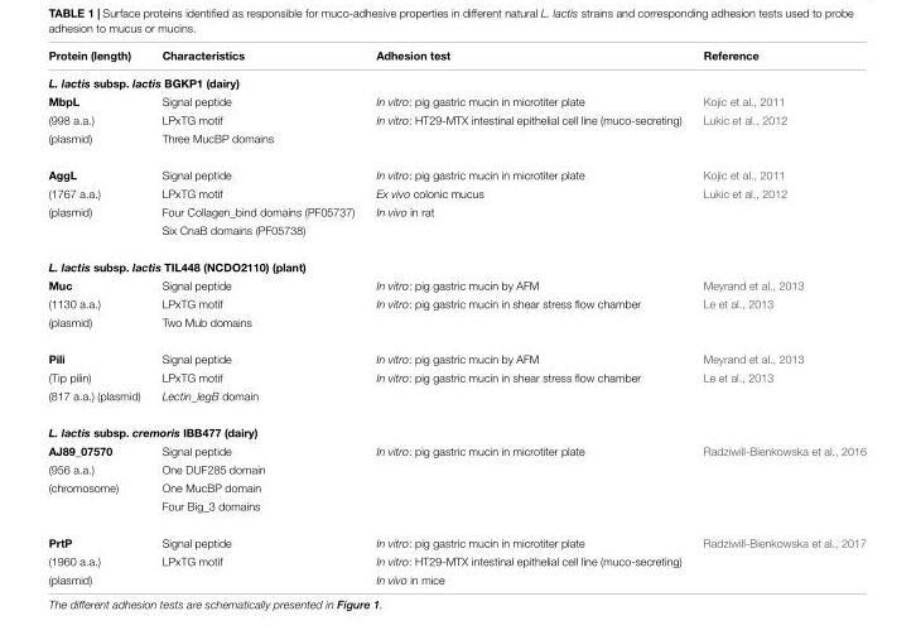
<table><thead><tr><td>Protein (length)</td><td>Characteristics</td><td>Adhesion test</td><td>Reference</td></tr></thead><tbody><tr><td colspan="4">L. lactis subsp. lactis BGKP1 (dairy)</td></tr><tr><td>MbpL</td><td>Signal peptide</td><td>In vitro: pig gastric mucin in microtiter plate</td><td>Kojic et al., 2011</td></tr><tr><td>(998 a.a.)</td><td>LPxTG motif</td><td>In vitro: HT29-MTX intestinal epithelial cell line (muco-secreting)</td><td>Lukic et al., 2012</td></tr><tr><td>(plasmid)</td><td>Three MucBP domains</td><td></td><td></td></tr><tr><td>AggL</td><td>Signal peptide</td><td>In vitro: pig gastric mucin in microtiter plate</td><td>Kojic et al., 2011</td></tr><tr><td>(1767 a.a.)</td><td>LPxTG motif</td><td>Ex vivo colonic mucus</td><td>Lukic et al., 2012</td></tr><tr><td rowspan="2">(plasmid)</td><td>Four Collagen_bind domains (PF05737)</td><td>In vivo in rat</td><td></td></tr><tr><td>Six CnaB domains (PF05738)</td><td></td><td></td></tr><tr><td colspan="4">L. lactis subsp. lactis TIL448 (NCDO2110) (plant)</td></tr><tr><td>Muc</td><td>Signal peptide</td><td>In vitro: pig gastric mucin by AFM</td><td>Meyrand et al., 2013</td></tr><tr><td>(1130 a.a.)</td><td>LPxTG motif</td><td>In vitro: pig gastric mucin in shear stress flow chamber</td><td>Le et al., 2013</td></tr><tr><td>(plasmid)</td><td>Two Mub domains</td><td></td><td></td></tr><tr><td>Pili</td><td>Signal peptide</td><td>In vitro: pig gastric mucin by AFM</td><td>Meyrand et al., 2013</td></tr><tr><td>(Tip pilin)</td><td>LPxTG motif</td><td>In vitro: pig gastric mucin in shear stress flow chamber</td><td>Le et al., 2013</td></tr><tr><td>(817 a.a.) (plasmid)</td><td>Lectin_legB domain</td><td></td><td></td></tr><tr><td colspan="4">L. lactis subsp. cremoris IBB477 (dairy)</td></tr><tr><td>AJ89_07570</td><td>Signal peptide</td><td>In vitro: pig gastric mucin in microtiter plate</td><td>Radziwill-Bienkowska et al., 2016</td></tr><tr><td>(956 a.a.)</td><td>One DUF285 domain</td><td></td><td></td></tr><tr><td rowspan="2">(chromosome)</td><td>One MucBP domain</td><td></td><td></td></tr><tr><td>Four Big_3 domains</td><td></td><td></td></tr><tr><td>PrtP</td><td>Signal peptide</td><td>In vitro: pig gastric mucin in microtiter plate</td><td>Radziwill-Bienkowska et al., 2017</td></tr><tr><td>(1960 a.a.)</td><td>LPxTG motif</td><td>In vitro: HT29-MTX intestinal epithelial cell line (muco-secreting)</td><td></td></tr><tr><td>(plasmid)</td><td></td><td>In vivo in mice</td><td></td></tr></tbody></table>